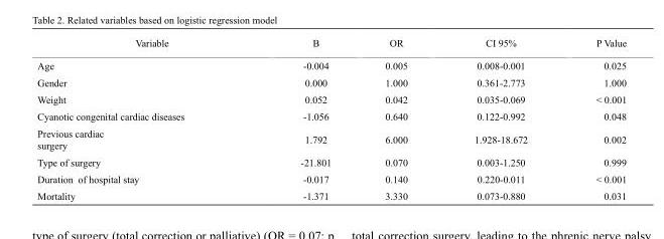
<table><thead><tr><td>Variable</td><td>B</td><td>OR</td><td>CI 95%</td><td>P Value</td></tr></thead><tbody><tr><td>Age</td><td>-0.004</td><td>0.005</td><td>0.008-0.001</td><td>0.025</td></tr><tr><td>Gender</td><td>0.000</td><td>1.000</td><td>0.361-2.773</td><td>1.000</td></tr><tr><td>Weight</td><td>0.052</td><td>0.042</td><td>0.035-0.069</td><td>&lt; 0.001</td></tr><tr><td>Cyanotic congenital cardiac diseases</td><td>-1.056</td><td>0.640</td><td>0.122-0.992</td><td>0.048</td></tr><tr><td>Previous cardiac surgery</td><td>1.792</td><td>6.000</td><td>1.928-18.672</td><td>0.002</td></tr><tr><td>Type of surgery</td><td>-21.801</td><td>0.070</td><td>0.003-1.250</td><td>0.999</td></tr><tr><td>Duration of hospital stay</td><td>-0.017</td><td>0.140</td><td>0.220-0.011</td><td>&lt; 0.001</td></tr><tr><td>Mortality</td><td>-1.371</td><td>3.330</td><td>0.073-0.880</td><td>0.031</td></tr></tbody></table>